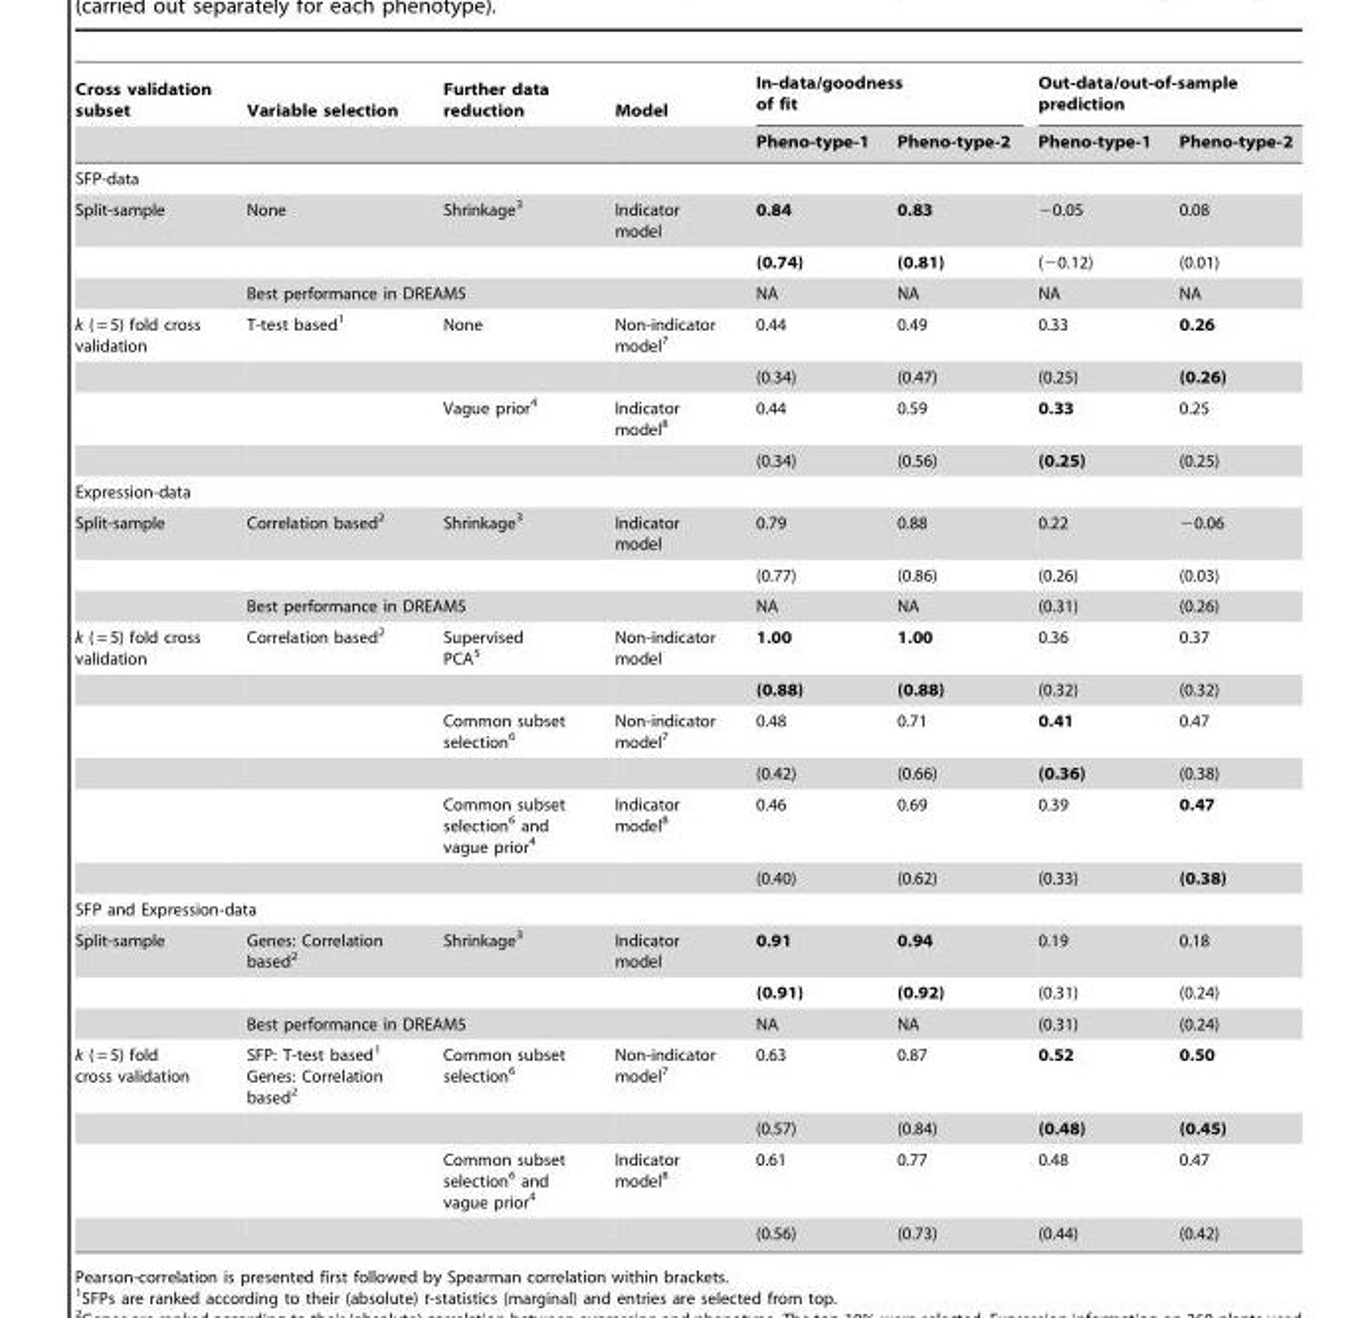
<table><thead><tr><td rowspan="2">Cross validation subset</td><td rowspan="2">Variable selection</td><td rowspan="2">Further data reduction</td><td rowspan="2">Model</td><td colspan="2">In-data/goodness of fit</td><td colspan="2">Out-data/out-of-sample prediction</td></tr><tr><td>Pheno-type-1</td><td>Pheno-type-2</td><td>Pheno-type-1</td><td>Pheno-type-2</td></tr></thead><tbody><tr><td colspan="8">SFP-data</td></tr><tr><td rowspan="3">Split-sample</td><td>None</td><td>Shrinkage<sup>3</sup></td><td>Indicator model</td><td>0.84</td><td>0.83</td><td>−0.05</td><td>0.08</td></tr><tr><td></td><td></td><td></td><td>(0.74)</td><td>(0.81)</td><td>(−0.12)</td><td>(0.01)</td></tr><tr><td colspan="3">Best performance in DREAM5</td><td>NA</td><td>NA</td><td>NA</td><td>NA</td></tr><tr><td rowspan="4">k ( = 5) fold cross validation</td><td>T-test based<sup>1</sup></td><td>None</td><td>Non-indicator model<sup>7</sup></td><td>0.44</td><td>0.49</td><td>0.33</td><td>0.26</td></tr><tr><td></td><td></td><td></td><td>(0.34)</td><td>(0.47)</td><td>(0.25)</td><td>(0.26)</td></tr><tr><td></td><td>Vague prior<sup>4</sup></td><td>Indicator model<sup>8</sup></td><td>0.44</td><td>0.59</td><td>0.33</td><td>0.25</td></tr><tr><td></td><td></td><td></td><td>(0.34)</td><td>(0.56)</td><td>(0.25)</td><td>(0.25)</td></tr><tr><td colspan="8">Expression-data</td></tr><tr><td rowspan="3">Split-sample</td><td>Correlation based<sup>2</sup></td><td>Shrinkage<sup>3</sup></td><td>Indicator model</td><td>0.79</td><td>0.88</td><td>0.22</td><td>−0.06</td></tr><tr><td></td><td></td><td></td><td>(0.77)</td><td>(0.86)</td><td>(0.26)</td><td>(0.03)</td></tr><tr><td colspan="3">Best performance in DREAM5</td><td>NA</td><td>NA</td><td>(0.31)</td><td>(0.26)</td></tr><tr><td rowspan="6">k ( = 5) fold cross validation</td><td>Correlation based<sup>2</sup></td><td>Supervised PCA<sup>5</sup></td><td>Non-indicator model</td><td>1.00</td><td>1.00</td><td>0.36</td><td>0.37</td></tr><tr><td></td><td></td><td></td><td>(0.88)</td><td>(0.88)</td><td>(0.32)</td><td>(0.32)</td></tr><tr><td></td><td>Common subset selection<sup>6</sup></td><td>Non-indicator model<sup>7</sup></td><td>0.48</td><td>0.71</td><td>0.41</td><td>0.47</td></tr><tr><td></td><td></td><td></td><td>(0.42)</td><td>(0.66)</td><td>(0.36)</td><td>(0.38)</td></tr><tr><td></td><td>Common subset selection<sup>6</sup> and vague prior<sup>4</sup></td><td>Indicator model<sup>8</sup></td><td>0.46</td><td>0.69</td><td>0.39</td><td>0.47</td></tr><tr><td></td><td></td><td></td><td>(0.40)</td><td>(0.62)</td><td>(0.33)</td><td>(0.38)</td></tr><tr><td colspan="8">SFP and Expression-data</td></tr><tr><td rowspan="3">Split-sample</td><td>Genes: Correlation based<sup>2</sup></td><td>Shrinkage<sup>3</sup></td><td>Indicator model</td><td>0.91</td><td>0.94</td><td>0.19</td><td>0.18</td></tr><tr><td></td><td></td><td></td><td>(0.91)</td><td>(0.92)</td><td>(0.31)</td><td>(0.24)</td></tr><tr><td colspan="3">Best performance in DREAM5</td><td>NA</td><td>NA</td><td>(0.31)</td><td>(0.24)</td></tr><tr><td rowspan="4">k ( = 5) fold cross validation</td><td>SFP: T-test based<sup>1</sup> Genes: Correlation based<sup>2</sup></td><td>Common subset selection<sup>6</sup></td><td>Non-indicator model<sup>7</sup></td><td>0.63</td><td>0.87</td><td>0.52</td><td>0.50</td></tr><tr><td></td><td></td><td></td><td>(0.57)</td><td>(0.84)</td><td>(0.48)</td><td>(0.45)</td></tr><tr><td></td><td>Common subset selection<sup>6</sup> and vague prior<sup>4</sup></td><td>Indicator model<sup>8</sup></td><td>0.61</td><td>0.77</td><td>0.48</td><td>0.47</td></tr><tr><td></td><td></td><td></td><td>(0.56)</td><td>(0.73)</td><td>(0.44)</td><td>(0.42)</td></tr></tbody></table>